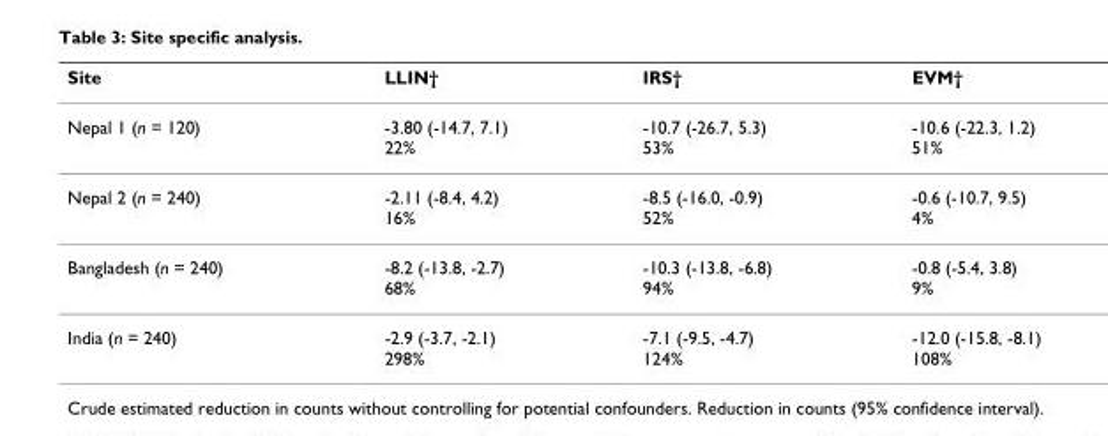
<table><thead><tr><td>Site</td><td>LLIN†</td><td>IRS†</td><td>EVM†</td></tr></thead><tbody><tr><td>Nepal 1 (n = 120)</td><td>-3.80 (-14.7, 7.1) 22%</td><td>-10.7 (-26.7, 5.3) 53%</td><td>-10.6 (-22.3, 1.2) 51%</td></tr><tr><td>Nepal 2 (n = 240)</td><td>-2.11 (-8.4, 4.2) 16%</td><td>-8.5 (-16.0, -0.9) 52%</td><td>-0.6 (-10.7, 9.5) 4%</td></tr><tr><td>Bangladesh (n = 240)</td><td>-8.2 (-13.8, -2.7) 68%</td><td>-10.3 (-13.8, -6.8) 94%</td><td>-0.8 (-5.4, 3.8) 9%</td></tr><tr><td>India (n = 240)</td><td>-2.9 (-3.7, -2.1) 298%</td><td>-7.1 (-9.5, -4.7) 124%</td><td>-12.0 (-15.8, -8.1) 108%</td></tr></tbody></table>